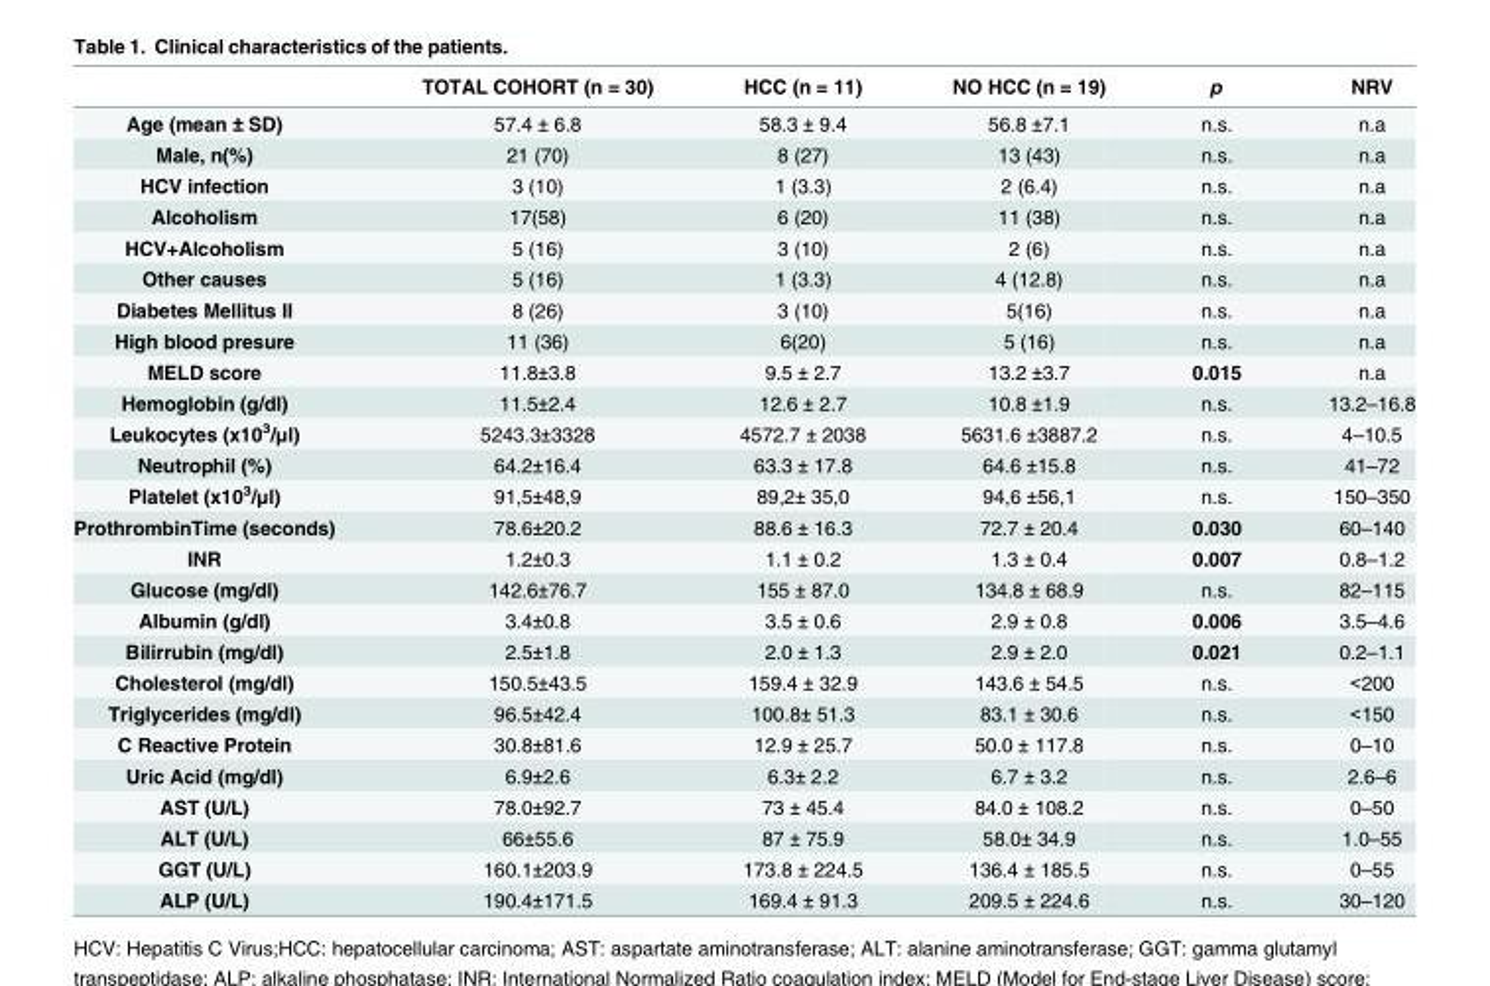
<table><thead><tr><td></td><td>TOTAL COHORT (n = 30)</td><td>HCC (n = 11)</td><td>NO HCC (n = 19)</td><td>p</td><td>NRV</td></tr></thead><tbody><tr><td>Age (mean ± SD)</td><td>57.4 ± 6.8</td><td>58.3 ± 9.4</td><td>56.8 ±7.1</td><td>n.s.</td><td>n.a</td></tr><tr><td>Male, n(%)</td><td>21 (70)</td><td>8 (27)</td><td>13 (43)</td><td>n.s.</td><td>n.a</td></tr><tr><td>HCV infection</td><td>3 (10)</td><td>1 (3.3)</td><td>2 (6.4)</td><td>n.s.</td><td>n.a</td></tr><tr><td>Alcoholism</td><td>17(58)</td><td>6 (20)</td><td>11 (38)</td><td>n.s.</td><td>n.a</td></tr><tr><td>HCV+Alcoholism</td><td>5 (16)</td><td>3 (10)</td><td>2 (6)</td><td>n.s.</td><td>n.a</td></tr><tr><td>Other causes</td><td>5 (16)</td><td>1 (3.3)</td><td>4 (12.8)</td><td>n.s.</td><td>n.a</td></tr><tr><td>Diabetes Mellitus II</td><td>8 (26)</td><td>3 (10)</td><td>5(16)</td><td>n.s.</td><td>n.a</td></tr><tr><td>High blood presure</td><td>11 (36)</td><td>6(20)</td><td>5 (16)</td><td>n.s.</td><td>n.a</td></tr><tr><td>MELD score</td><td>11.8±3.8</td><td>9.5 ± 2.7</td><td>13.2 ±3.7</td><td>0.015</td><td>n.a</td></tr><tr><td>Hemoglobin (g/dl)</td><td>11.5±2.4</td><td>12.6 ± 2.7</td><td>10.8 ±1.9</td><td>n.s.</td><td>13.2–16.8</td></tr><tr><td>Leukocytes (x10<sup>3</sup>/μl)</td><td>5243.3±3328</td><td>4572.7 ± 2038</td><td>5631.6 ±3887.2</td><td>n.s.</td><td>4–10.5</td></tr><tr><td>Neutrophil (%)</td><td>64.2±16.4</td><td>63.3 ± 17.8</td><td>64.6 ±15.8</td><td>n.s.</td><td>41–72</td></tr><tr><td>Platelet (x10<sup>3</sup>/μl)</td><td>91,5±48,9</td><td>89,2± 35,0</td><td>94,6 ±56,1</td><td>n.s.</td><td>150–350</td></tr><tr><td>ProthrombinTime (seconds)</td><td>78.6±20.2</td><td>88.6 ± 16.3</td><td>72.7 ± 20.4</td><td>0.030</td><td>60–140</td></tr><tr><td>INR</td><td>1.2±0.3</td><td>1.1 ± 0.2</td><td>1.3 ± 0.4</td><td>0.007</td><td>0.8–1.2</td></tr><tr><td>Glucose (mg/dl)</td><td>142.6±76.7</td><td>155 ± 87.0</td><td>134.8 ± 68.9</td><td>n.s.</td><td>82–115</td></tr><tr><td>Albumin (g/dl)</td><td>3.4±0.8</td><td>3.5 ± 0.6</td><td>2.9 ± 0.8</td><td>0.006</td><td>3.5–4.6</td></tr><tr><td>Bilirrubin (mg/dl)</td><td>2.5±1.8</td><td>2.0 ± 1.3</td><td>2.9 ± 2.0</td><td>0.021</td><td>0.2–1.1</td></tr><tr><td>Cholesterol (mg/dl)</td><td>150.5±43.5</td><td>159.4 ± 32.9</td><td>143.6 ± 54.5</td><td>n.s.</td><td>&lt;200</td></tr><tr><td>Triglycerides (mg/dl)</td><td>96.5±42.4</td><td>100.8± 51.3</td><td>83.1 ± 30.6</td><td>n.s.</td><td>&lt;150</td></tr><tr><td>C Reactive Protein</td><td>30.8±81.6</td><td>12.9 ± 25.7</td><td>50.0 ± 117.8</td><td>n.s.</td><td>0–10</td></tr><tr><td>Uric Acid (mg/dl)</td><td>6.9±2.6</td><td>6.3± 2.2</td><td>6.7 ± 3.2</td><td>n.s.</td><td>2.6–6</td></tr><tr><td>AST (U/L)</td><td>78.0±92.7</td><td>73 ± 45.4</td><td>84.0 ± 108.2</td><td>n.s.</td><td>0–50</td></tr><tr><td>ALT (U/L)</td><td>66±55.6</td><td>87 ± 75.9</td><td>58.0± 34.9</td><td>n.s.</td><td>1.0–55</td></tr><tr><td>GGT (U/L)</td><td>160.1±203.9</td><td>173.8 ± 224.5</td><td>136.4 ± 185.5</td><td>n.s.</td><td>0–55</td></tr><tr><td>ALP (U/L)</td><td>190.4±171.5</td><td>169.4 ± 91.3</td><td>209.5 ± 224.6</td><td>n.s.</td><td>30–120</td></tr></tbody></table>